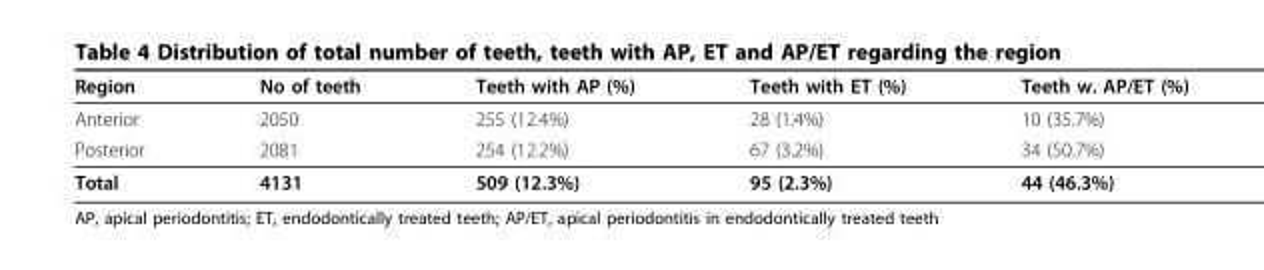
<table><thead><tr><td>Region</td><td>No of teeth</td><td>Teeth with AP (%)</td><td>Teeth with ET (%)</td><td>Teeth w. AP/ET (%)</td></tr></thead><tbody><tr><td>Anterior</td><td>2050</td><td>255 (12.4%)</td><td>28 (1.4%)</td><td>10 (35.7%)</td></tr><tr><td>Posterior</td><td>2081</td><td>254 (12.2%)</td><td>67 (3.2%)</td><td>34 (50.7%)</td></tr><tr><td>Total</td><td>4131</td><td>509 (12.3%)</td><td>95 (2.3%)</td><td>44 (46.3%)</td></tr></tbody></table>